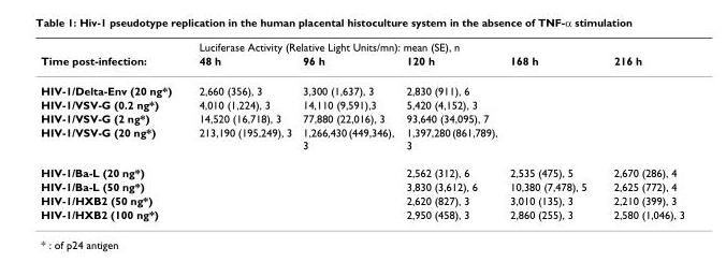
<table><thead><tr><td rowspan="2">Time post-infection:</td><td colspan="5">Luciferase Activity (Relative Light Units/mn): mean (SE), n</td></tr><tr><td>48 h</td><td>96 h</td><td>120 h</td><td>168 h</td><td>216 h</td></tr></thead><tbody><tr><td>HIV-1/Delta-Env (20 ng*)</td><td>2,660 (356), 3</td><td>3,300 (1,637), 3</td><td>2,830 (911), 6</td><td></td><td></td></tr><tr><td>HIV-1/VSV-G (0.2 ng*)</td><td>4,010 (1,224), 3</td><td>14,110 (9,591),3</td><td>5,420 (4,152), 3</td><td></td><td></td></tr><tr><td>HIV-1/VSV-G (2 ng*)</td><td>14,520 (16,718), 3</td><td>77,880 (22,016), 3</td><td>93,640 (34,095), 7</td><td></td><td></td></tr><tr><td>HIV-1/VSV-G (20 ng*)</td><td>213,190 (195,249), 3</td><td>1,266,430 (449,346), 3</td><td>1,397,280 (861,789), 3</td><td></td><td></td></tr><tr><td>HIV-1/Ba-L (20 ng*)</td><td></td><td></td><td>2,562 (312), 6</td><td>2,535 (475), 5</td><td>2,670 (286), 4</td></tr><tr><td>HIV-1/Ba-L (50 ng*)</td><td></td><td></td><td>3,830 (3,612), 6</td><td>10,380 (7,478), 5</td><td>2,625 (772), 4</td></tr><tr><td>HIV-1/HXB2 (50 ng*)</td><td></td><td></td><td>2,620 (827), 3</td><td>3,010 (135), 3</td><td>2,210 (399), 3</td></tr><tr><td>HIV-1/HXB2 (100 ng*)</td><td></td><td></td><td>2,950 (458), 3</td><td>2,860 (255), 3</td><td>2,580 (1,046), 3</td></tr></tbody></table>